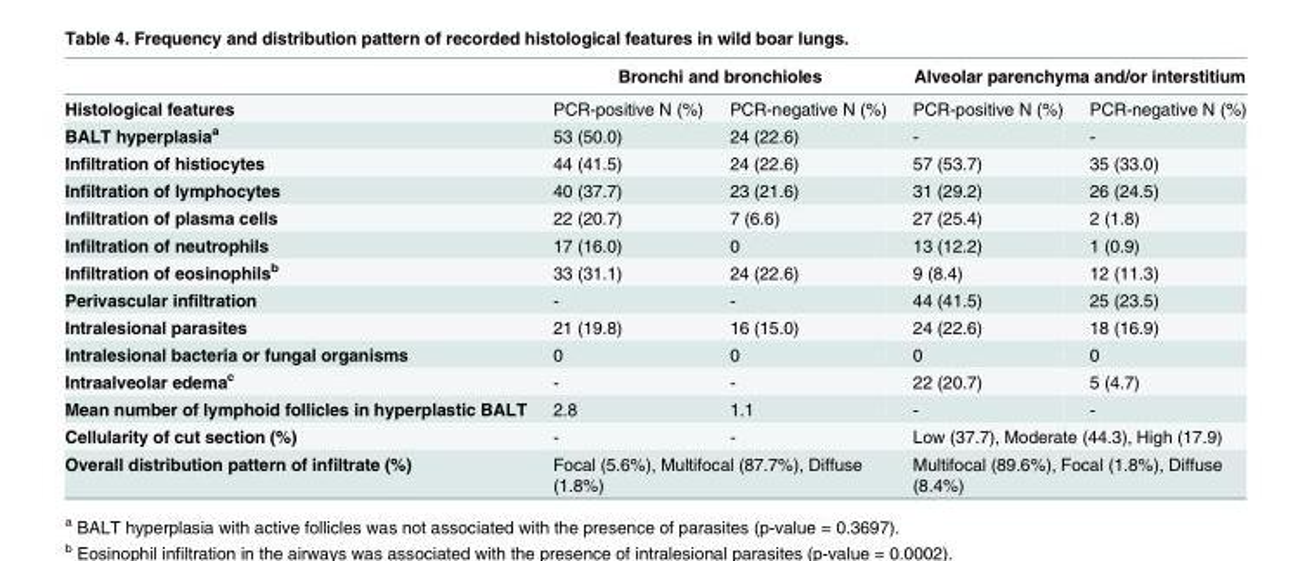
<table><thead><tr><td rowspan="2">Histological features</td><td colspan="2">Bronchi and bronchioles</td><td colspan="2">Alveolar parenchyma and/or interstitium</td></tr><tr><td>PCR-positive N (%)</td><td>PCR-negative N (%)</td><td>PCR-positive N (%)</td><td>PCR-negative N (%)</td></tr></thead><tbody><tr><td>BALT hyperplasia<sup>a</sup></td><td>53 (50.0)</td><td>24 (22.6)</td><td>-</td><td>-</td></tr><tr><td>Infiltration of histiocytes</td><td>44 (41.5)</td><td>24 (22.6)</td><td>57 (53.7)</td><td>35 (33.0)</td></tr><tr><td>Infiltration of lymphocytes</td><td>40 (37.7)</td><td>23 (21.6)</td><td>31 (29.2)</td><td>26 (24.5)</td></tr><tr><td>Infiltration of plasma cells</td><td>22 (20.7)</td><td>7 (6.6)</td><td>27 (25.4)</td><td>2 (1.8)</td></tr><tr><td>Infiltration of neutrophils</td><td>17 (16.0)</td><td>0</td><td>13 (12.2)</td><td>1 (0.9)</td></tr><tr><td>Infiltration of eosinophils<sup>b</sup></td><td>33 (31.1)</td><td>24 (22.6)</td><td>9 (8.4)</td><td>12 (11.3)</td></tr><tr><td>Perivascular infiltration</td><td>-</td><td>-</td><td>44 (41.5)</td><td>25 (23.5)</td></tr><tr><td>Intralesional parasites</td><td>21 (19.8)</td><td>16 (15.0)</td><td>24 (22.6)</td><td>18 (16.9)</td></tr><tr><td>Intralesional bacteria or fungal organisms</td><td>0</td><td>0</td><td>0</td><td>0</td></tr><tr><td>Intraalveolar edema<sup>c</sup></td><td>-</td><td>-</td><td>22 (20.7)</td><td>5 (4.7)</td></tr><tr><td>Mean number of lymphoid follicles in hyperplastic BALT</td><td>2.8</td><td>1.1</td><td>-</td><td>-</td></tr><tr><td>Cellularity of cut section (%)</td><td>-</td><td>-</td><td colspan="2">Low (37.7), Moderate (44.3), High (17.9)</td></tr><tr><td>Overall distribution pattern of infiltrate (%)</td><td colspan="2">Focal (5.6%), Multifocal (87.7%), Diffuse (1.8%)</td><td colspan="2">Multifocal (89.6%), Focal (1.8%), Diffuse (8.4%)</td></tr></tbody></table>